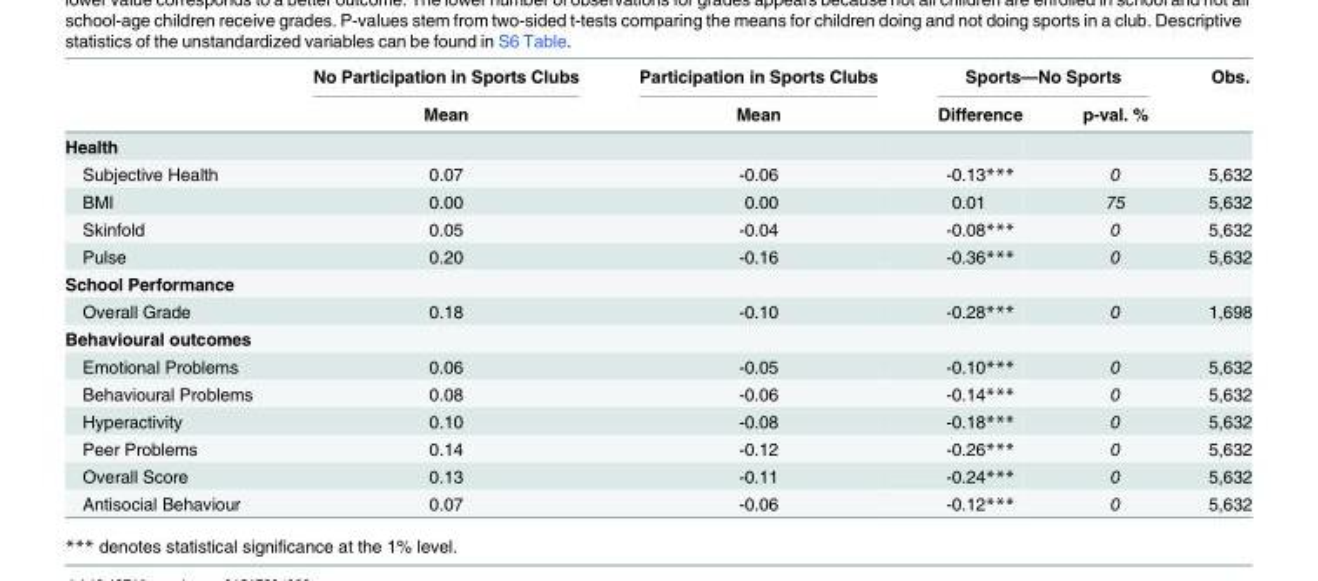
<table><thead><tr><td rowspan="2"></td><td rowspan="2">No Participation in Sports Clubs Mean</td><td rowspan="2">Participation in Sports Clubs Mean</td><td colspan="2">Sports—No Sports</td><td rowspan="2">Obs.</td></tr><tr><td>Difference</td><td>p-val. %</td></tr></thead><tbody><tr><td colspan="6">Health</td></tr><tr><td>Subjective Health</td><td>0.07</td><td>-0.06</td><td>-0.13***</td><td>0</td><td>5,632</td></tr><tr><td>BMI</td><td>0.00</td><td>0.00</td><td>0.01</td><td>75</td><td>5,632</td></tr><tr><td>Skinfold</td><td>0.05</td><td>-0.04</td><td>-0.08***</td><td>0</td><td>5,632</td></tr><tr><td>Pulse</td><td>0.20</td><td>-0.16</td><td>-0.36***</td><td>0</td><td>5,632</td></tr><tr><td colspan="6">School Performance</td></tr><tr><td>Overall Grade</td><td>0.18</td><td>-0.10</td><td>-0.28***</td><td>0</td><td>1,698</td></tr><tr><td colspan="6">Behavioural outcomes</td></tr><tr><td>Emotional Problems</td><td>0.06</td><td>-0.05</td><td>-0.10***</td><td>0</td><td>5,632</td></tr><tr><td>Behavioural Problems</td><td>0.08</td><td>-0.06</td><td>-0.14***</td><td>0</td><td>5,632</td></tr><tr><td>Hyperactivity</td><td>0.10</td><td>-0.08</td><td>-0.18***</td><td>0</td><td>5,632</td></tr><tr><td>Peer Problems</td><td>0.14</td><td>-0.12</td><td>-0.26***</td><td>0</td><td>5,632</td></tr><tr><td>Overall Score</td><td>0.13</td><td>-0.11</td><td>-0.24***</td><td>0</td><td>5,632</td></tr><tr><td>Antisocial Behaviour</td><td>0.07</td><td>-0.06</td><td>-0.12***</td><td>0</td><td>5,632</td></tr></tbody></table>